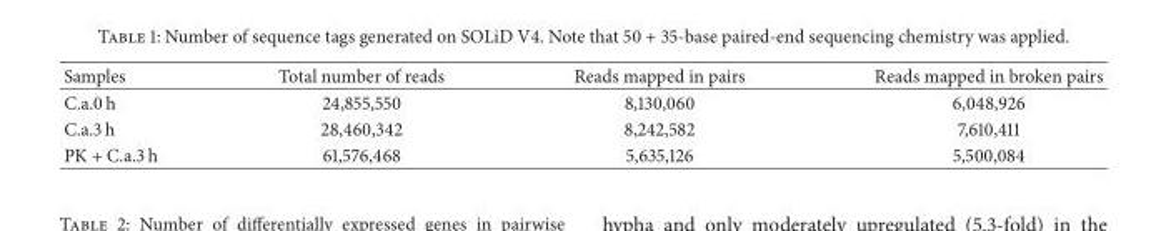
<table><thead><tr><td>Samples</td><td>Total number of reads</td><td>Reads mapped in pairs</td><td>Reads mapped in broken pairs</td></tr></thead><tbody><tr><td>C.a.0 h</td><td>24,855,550</td><td>8,130,060</td><td>6,048,926</td></tr><tr><td>C.a.3 h</td><td>28,460,342</td><td>8,242,582</td><td>7,610,411</td></tr><tr><td>PK + C.a.3 h</td><td>61,576,468</td><td>5,635,126</td><td>5,500,084</td></tr></tbody></table>